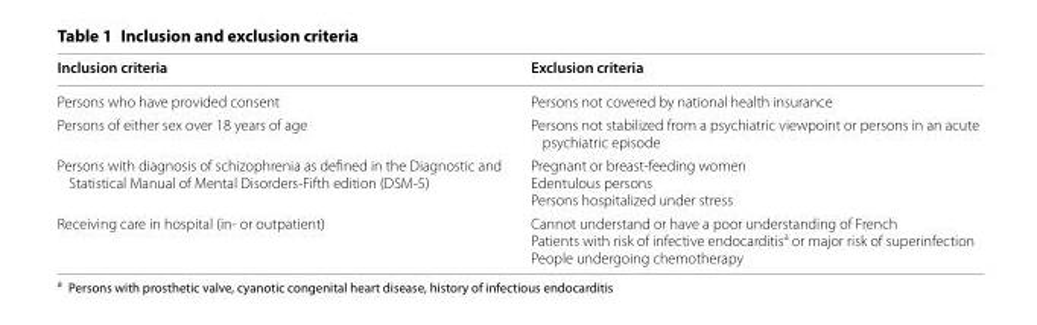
<table><thead><tr><td>Inclusion criteria</td><td>Exclusion criteria</td></tr></thead><tbody><tr><td>Persons who have provided consent</td><td>Persons not covered by national health insurance</td></tr><tr><td>Persons of either sex over 18 years of age</td><td>Persons not stabilized from a psychiatric viewpoint or persons in an acute psychiatric episode</td></tr><tr><td>Persons with diagnosis of schizophrenia as defined in the Diagnostic and Statistical Manual of Mental Disorders‑Fifth edition (DSM‑5)</td><td>Pregnant or breast‑feeding women Edentulous persons Persons hospitalized under stress</td></tr><tr><td>Receiving care in hospital (in‑ or outpatient)</td><td>Cannot understand or have a poor understanding of French Patients with risk of infective endocarditis<sup>a</sup> or major risk of superinfection People undergoing chemotherapy</td></tr></tbody></table>